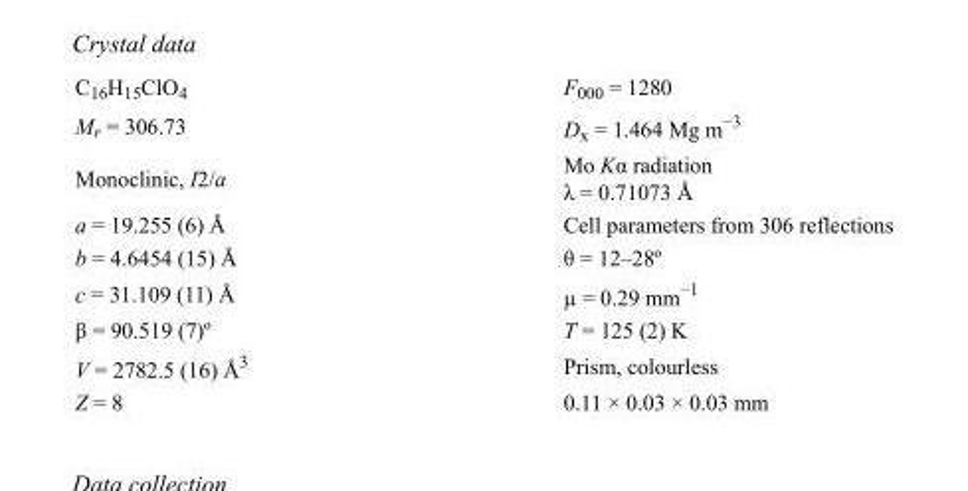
<table><tbody><tr><td>C<sub>16</sub>H<sub>15</sub>ClO<sub>4</sub></td><td>F000 = 1280</td></tr><tr><td>M<sub>r</sub> = 306.73</td><td>D<sub>x</sub> = 1.464 Mg m<sup>−3</sup></td></tr><tr><td>Monoclinic, I2/a</td><td>Mo Kα radiation λ = 0.71073 Å</td></tr><tr><td>a = 19.255 (6) Å</td><td>Cell parameters from 306 reflections</td></tr><tr><td>b = 4.6454 (15) Å</td><td>θ = 12–28º</td></tr><tr><td>c = 31.109 (11) Å</td><td>µ = 0.29 mm<sup>−1</sup></td></tr><tr><td>β = 90.519 (7)º</td><td>T = 125 (2) K</td></tr><tr><td>V = 2782.5 (16) Å<sup>3</sup></td><td>Prism, colourless</td></tr><tr><td>Z = 8</td><td>0.11 × 0.03 × 0.03 mm</td></tr></tbody></table>